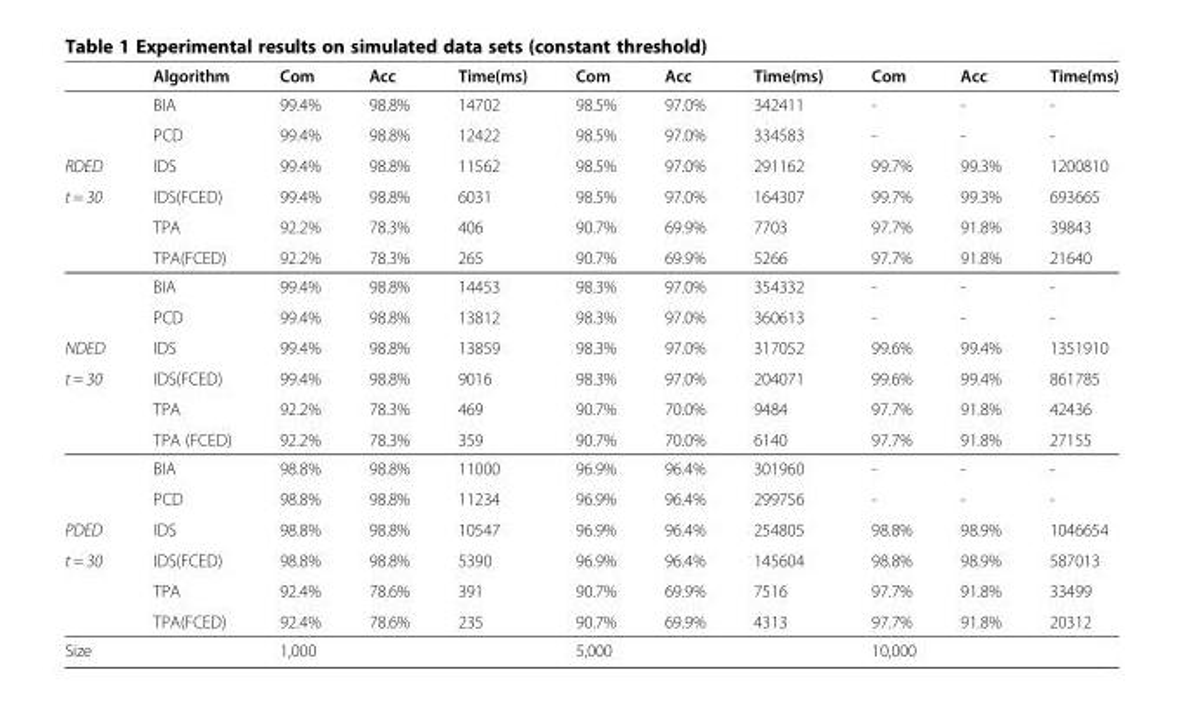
<table><thead><tr><td></td><td>Algorithm</td><td>Com</td><td>Acc</td><td>Time(ms)</td><td>Com</td><td>Acc</td><td>Time(ms)</td><td>Com</td><td>Acc</td><td>Time(ms)</td></tr></thead><tbody><tr><td></td><td>BIA</td><td>99.4%</td><td>98.8%</td><td>14702</td><td>98.5%</td><td>97.0%</td><td>342411</td><td>-</td><td>-</td><td>-</td></tr><tr><td></td><td>PCD</td><td>99.4%</td><td>98.8%</td><td>12422</td><td>98.5%</td><td>97.0%</td><td>334583</td><td>-</td><td>-</td><td>-</td></tr><tr><td>RDED</td><td>IDS</td><td>99.4%</td><td>98.8%</td><td>11562</td><td>98.5%</td><td>97.0%</td><td>291162</td><td>99.7%</td><td>99.3%</td><td>1200810</td></tr><tr><td rowspan="5">t = 30</td><td>IDS(FCED)</td><td>99.4%</td><td>98.8%</td><td>6031</td><td>98.5%</td><td>97.0%</td><td>164307</td><td>99.7%</td><td>99.3%</td><td>693665</td></tr><tr><td>TPA</td><td>92.2%</td><td>78.3%</td><td>406</td><td>90.7%</td><td>69.9%</td><td>7703</td><td>97.7%</td><td>91.8%</td><td>39843</td></tr><tr><td>TPA(FCED)</td><td>92.2%</td><td>78.3%</td><td>265</td><td>90.7%</td><td>69.9%</td><td>5266</td><td>97.7%</td><td>91.8%</td><td>21640</td></tr><tr><td>BIA</td><td>99.4%</td><td>98.8%</td><td>14453</td><td>98.3%</td><td>97.0%</td><td>354332</td><td>-</td><td>-</td><td>-</td></tr><tr><td>PCD</td><td>99.4%</td><td>98.8%</td><td>13812</td><td>98.3%</td><td>97.0%</td><td>360613</td><td>-</td><td>-</td><td>-</td></tr><tr><td>NDED</td><td>IDS</td><td>99.4%</td><td>98.8%</td><td>13859</td><td>98.3%</td><td>97.0%</td><td>317052</td><td>99.6%</td><td>99.4%</td><td>1351910</td></tr><tr><td rowspan="5">t = 30</td><td>IDS(FCED)</td><td>99.4%</td><td>98.8%</td><td>9016</td><td>98.3%</td><td>97.0%</td><td>204071</td><td>99.6%</td><td>99.4%</td><td>861785</td></tr><tr><td>TPA</td><td>92.2%</td><td>78.3%</td><td>469</td><td>90.7%</td><td>70.0%</td><td>9484</td><td>97.7%</td><td>91.8%</td><td>42436</td></tr><tr><td>TPA (FCED)</td><td>92.2%</td><td>78.3%</td><td>359</td><td>90.7%</td><td>70.0%</td><td>6140</td><td>97.7%</td><td>91.8%</td><td>27155</td></tr><tr><td>BIA</td><td>98.8%</td><td>98.8%</td><td>11000</td><td>96.9%</td><td>96.4%</td><td>301960</td><td>-</td><td>-</td><td>-</td></tr><tr><td>PCD</td><td>98.8%</td><td>98.8%</td><td>11234</td><td>96.9%</td><td>96.4%</td><td>299756</td><td>-</td><td>-</td><td>-</td></tr><tr><td>PDED</td><td>IDS</td><td>98.8%</td><td>98.8%</td><td>10547</td><td>96.9%</td><td>96.4%</td><td>254805</td><td>98.8%</td><td>98.9%</td><td>1046654</td></tr><tr><td rowspan="3">t = 30</td><td>IDS(FCED)</td><td>98.8%</td><td>98.8%</td><td>5390</td><td>96.9%</td><td>96.4%</td><td>145604</td><td>98.8%</td><td>98.9%</td><td>587013</td></tr><tr><td>TPA</td><td>92.4%</td><td>78.6%</td><td>391</td><td>90.7%</td><td>69.9%</td><td>7516</td><td>97.7%</td><td>91.8%</td><td>33499</td></tr><tr><td>TPA(FCED)</td><td>92.4%</td><td>78.6%</td><td>235</td><td>90.7%</td><td>69.9%</td><td>4313</td><td>97.7%</td><td>91.8%</td><td>20312</td></tr><tr><td>Size</td><td></td><td>1,000</td><td></td><td></td><td>5,000</td><td></td><td></td><td colspan="3">10,000</td></tr></tbody></table>